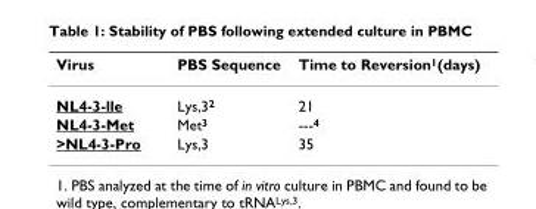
<table><thead><tr><td>Virus</td><td>PBS Sequence</td><td>Time to Reversion<sup>1</sup>(days)</td></tr></thead><tbody><tr><td>NL4-3-lle</td><td>Lys,3<sup>2</sup></td><td>21</td></tr><tr><td>NL4-3-Met</td><td>Met<sup>3</sup></td><td>---<sup>4</sup></td></tr><tr><td>&gt;NL4-3-Pro</td><td>Lys,3</td><td>35</td></tr></tbody></table>